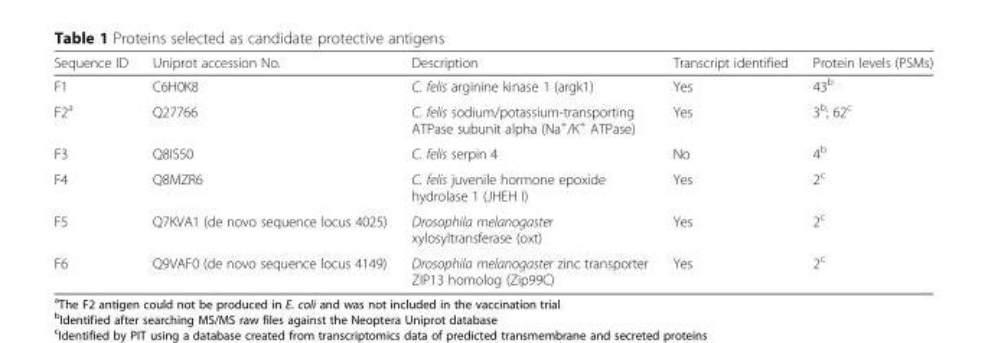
<table><thead><tr><td>Sequence ID</td><td>Uniprot accession No.</td><td>Description</td><td>Transcript identified</td><td>Protein levels (PSMs)</td></tr></thead><tbody><tr><td>F1</td><td>C6H0K8</td><td>C. felis arginine kinase 1 (argk1)</td><td>Yes</td><td>43<sup>b</sup></td></tr><tr><td>F2<sup>a</sup></td><td>Q27766</td><td>C. felis sodium/potassium-transporting ATPase subunit alpha (Na<sup>+</sup>/K<sup>+</sup> ATPase)</td><td>Yes</td><td>3<sup>b</sup>; 62<sup>c</sup></td></tr><tr><td>F3</td><td>Q8IS50</td><td>C. felis serpin 4</td><td>No</td><td>4<sup>b</sup></td></tr><tr><td>F4</td><td>Q8MZR6</td><td>C. felis juvenile hormone epoxide hydrolase 1 (JHEH I)</td><td>Yes</td><td>2<sup>c</sup></td></tr><tr><td>F5</td><td>Q7KVA1 (de novo sequence locus 4025)</td><td>Drosophila melanogaster xylosyltransferase (oxt)</td><td>Yes</td><td>2<sup>c</sup></td></tr><tr><td>F6</td><td>Q9VAF0 (de novo sequence locus 4149)</td><td>Drosophila melanogaster zinc transporter ZIP13 homolog (Zip99C)</td><td>Yes</td><td>2<sup>c</sup></td></tr></tbody></table>